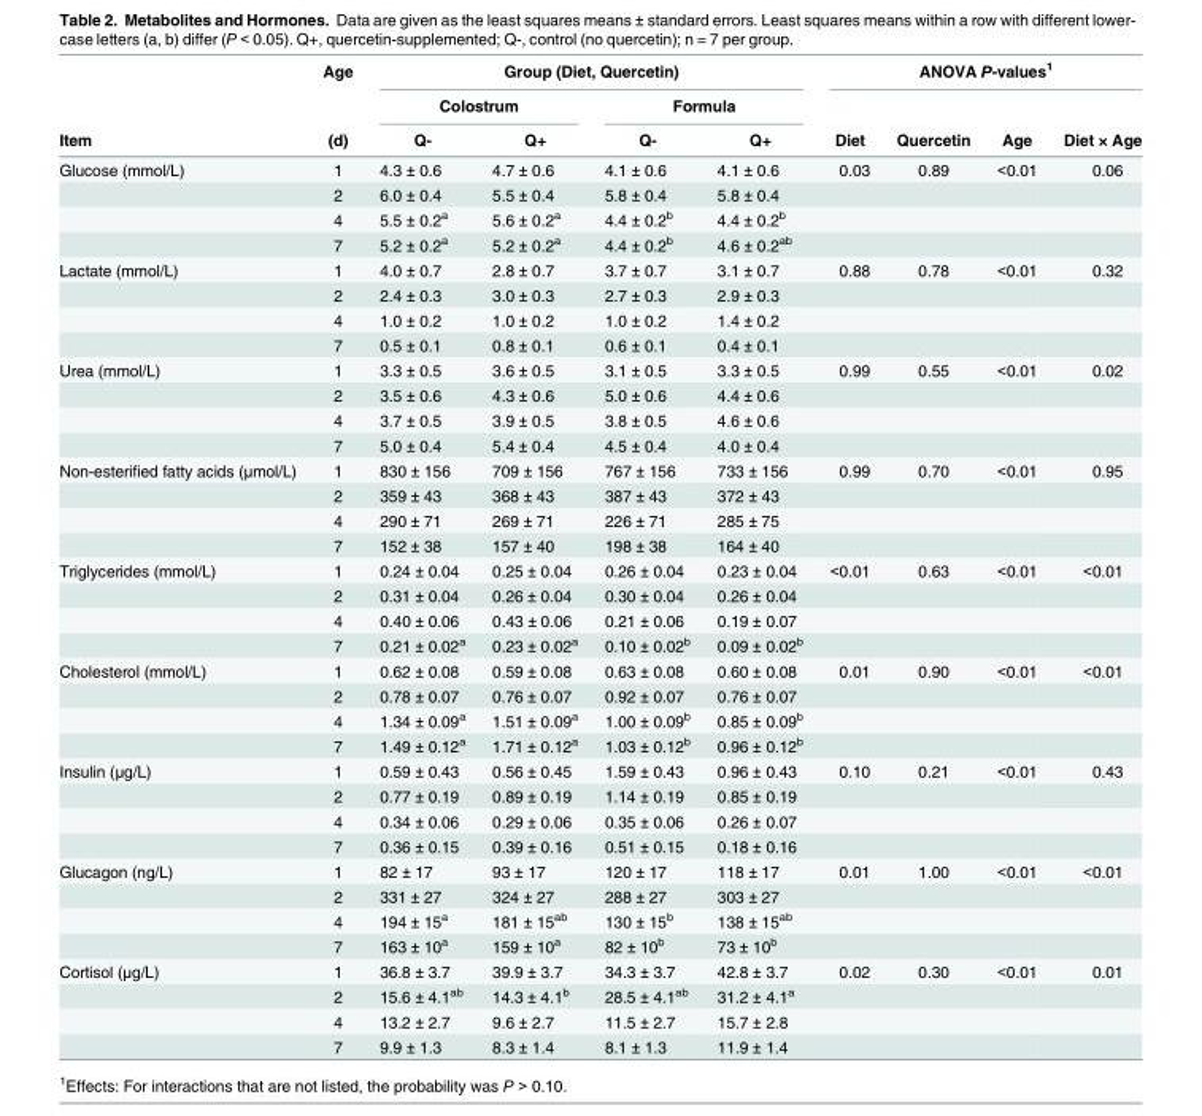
<table><thead><tr><td rowspan="3">Item</td><td rowspan="3">Age (d)</td><td colspan="4">Group (Diet, Quercetin)</td><td colspan="4">ANOVA P-values<sup>1</sup></td></tr><tr><td colspan="2">Colostrum</td><td colspan="2">Formula</td><td rowspan="2">Diet</td><td rowspan="2">Quercetin</td><td rowspan="2">Age</td><td rowspan="2">Diet × Age</td></tr><tr><td>Q-</td><td>Q+</td><td>Q-</td><td>Q+</td></tr></thead><tbody><tr><td rowspan="4">Glucose (mmol/L)</td><td>1</td><td>4.3 ± 0.6</td><td>4.7 ± 0.6</td><td>4.1 ± 0.6</td><td>4.1 ± 0.6</td><td>0.03</td><td>0.89</td><td>&lt;0.01</td><td>0.06</td></tr><tr><td>2</td><td>6.0 ± 0.4</td><td>5.5 ± 0.4</td><td>5.8 ± 0.4</td><td>5.8 ± 0.4</td><td></td><td></td><td></td><td></td></tr><tr><td>4</td><td>5.5 ± 0.2<sup>a</sup></td><td>5.6 ± 0.2<sup>a</sup></td><td>4.4 ± 0.2<sup>b</sup></td><td>4.4 ± 0.2<sup>b</sup></td><td></td><td></td><td></td><td></td></tr><tr><td>7</td><td>5.2 ± 0.2<sup>a</sup></td><td>5.2 ± 0.2<sup>a</sup></td><td>4.4 ± 0.2<sup>b</sup></td><td>4.6 ± 0.2<sup>ab</sup></td><td></td><td></td><td></td><td></td></tr><tr><td rowspan="4">Lactate (mmol/L)</td><td>1</td><td>4.0 ± 0.7</td><td>2.8 ± 0.7</td><td>3.7 ± 0.7</td><td>3.1 ± 0.7</td><td>0.88</td><td>0.78</td><td>&lt;0.01</td><td>0.32</td></tr><tr><td>2</td><td>2.4 ± 0.3</td><td>3.0 ± 0.3</td><td>2.7 ± 0.3</td><td>2.9 ± 0.3</td><td></td><td></td><td></td><td></td></tr><tr><td>4</td><td>1.0 ± 0.2</td><td>1.0 ± 0.2</td><td>1.0 ± 0.2</td><td>1.4 ± 0.2</td><td></td><td></td><td></td><td></td></tr><tr><td>7</td><td>0.5 ± 0.1</td><td>0.8 ± 0.1</td><td>0.6 ± 0.1</td><td>0.4 ± 0.1</td><td></td><td></td><td></td><td></td></tr><tr><td rowspan="4">Urea (mmol/L)</td><td>1</td><td>3.3 ± 0.5</td><td>3.6 ± 0.5</td><td>3.1 ± 0.5</td><td>3.3 ± 0.5</td><td>0.99</td><td>0.55</td><td>&lt;0.01</td><td>0.02</td></tr><tr><td>2</td><td>3.5 ± 0.6</td><td>4.3 ± 0.6</td><td>5.0 ± 0.6</td><td>4.4 ± 0.6</td><td></td><td></td><td></td><td></td></tr><tr><td>4</td><td>3.7 ± 0.5</td><td>3.9 ± 0.5</td><td>3.8 ± 0.5</td><td>4.6 ± 0.6</td><td></td><td></td><td></td><td></td></tr><tr><td>7</td><td>5.0 ± 0.4</td><td>5.4 ± 0.4</td><td>4.5 ± 0.4</td><td>4.0 ± 0.4</td><td></td><td></td><td></td><td></td></tr><tr><td rowspan="4">Non-esterified fatty acids (μmol/L)</td><td>1</td><td>830 ± 156</td><td>709 ± 156</td><td>767 ± 156</td><td>733 ± 156</td><td>0.99</td><td>0.70</td><td>&lt;0.01</td><td>0.95</td></tr><tr><td>2</td><td>359 ± 43</td><td>368 ± 43</td><td>387 ± 43</td><td>372 ± 43</td><td></td><td></td><td></td><td></td></tr><tr><td>4</td><td>290 ± 71</td><td>269 ± 71</td><td>226 ± 71</td><td>285 ± 75</td><td></td><td></td><td></td><td></td></tr><tr><td>7</td><td>152 ± 38</td><td>157 ± 40</td><td>198 ± 38</td><td>164 ± 40</td><td></td><td></td><td></td><td></td></tr><tr><td rowspan="4">Triglycerides (mmol/L)</td><td>1</td><td>0.24 ± 0.04</td><td>0.25 ± 0.04</td><td>0.26 ± 0.04</td><td>0.23 ± 0.04</td><td>&lt;0.01</td><td>0.63</td><td>&lt;0.01</td><td>&lt;0.01</td></tr><tr><td>2</td><td>0.31 ± 0.04</td><td>0.26 ± 0.04</td><td>0.30 ± 0.04</td><td>0.26 ± 0.04</td><td></td><td></td><td></td><td></td></tr><tr><td>4</td><td>0.40 ± 0.06</td><td>0.43 ± 0.06</td><td>0.21 ± 0.06</td><td>0.19 ± 0.07</td><td></td><td></td><td></td><td></td></tr><tr><td>7</td><td>0.21 ± 0.02<sup>a</sup></td><td>0.23 ± 0.02<sup>a</sup></td><td>0.10 ± 0.02<sup>b</sup></td><td>0.09 ± 0.02<sup>b</sup></td><td></td><td></td><td></td><td></td></tr><tr><td rowspan="4">Cholesterol (mmol/L)</td><td>1</td><td>0.62 ± 0.08</td><td>0.59 ± 0.08</td><td>0.63 ± 0.08</td><td>0.60 ± 0.08</td><td>0.01</td><td>0.90</td><td>&lt;0.01</td><td>&lt;0.01</td></tr><tr><td>2</td><td>0.78 ± 0.07</td><td>0.76 ± 0.07</td><td>0.92 ± 0.07</td><td>0.76 ± 0.07</td><td></td><td></td><td></td><td></td></tr><tr><td>4</td><td>1.34 ± 0.09<sup>a</sup></td><td>1.51 ± 0.09<sup>a</sup></td><td>1.00 ± 0.09<sup>b</sup></td><td>0.85 ± 0.09<sup>b</sup></td><td></td><td></td><td></td><td></td></tr><tr><td>7</td><td>1.49 ± 0.12<sup>a</sup></td><td>1.71 ± 0.12<sup>a</sup></td><td>1.03 ± 0.12<sup>b</sup></td><td>0.96 ± 0.12<sup>b</sup></td><td></td><td></td><td></td><td></td></tr><tr><td rowspan="4">Insulin (μg/L)</td><td>1</td><td>0.59 ± 0.43</td><td>0.56 ± 0.45</td><td>1.59 ± 0.43</td><td>0.96 ± 0.43</td><td>0.10</td><td>0.21</td><td>&lt;0.01</td><td>0.43</td></tr><tr><td>2</td><td>0.77 ± 0.19</td><td>0.89 ± 0.19</td><td>1.14 ± 0.19</td><td>0.85 ± 0.19</td><td></td><td></td><td></td><td></td></tr><tr><td>4</td><td>0.34 ± 0.06</td><td>0.29 ± 0.06</td><td>0.35 ± 0.06</td><td>0.26 ± 0.07</td><td></td><td></td><td></td><td></td></tr><tr><td>7</td><td>0.36 ± 0.15</td><td>0.39 ± 0.16</td><td>0.51 ± 0.15</td><td>0.18 ± 0.16</td><td></td><td></td><td></td><td></td></tr><tr><td rowspan="4">Glucagon (ng/L)</td><td>1</td><td>82 ± 17</td><td>93 ± 17</td><td>120 ± 17</td><td>118 ± 17</td><td>0.01</td><td>1.00</td><td>&lt;0.01</td><td>&lt;0.01</td></tr><tr><td>2</td><td>331 ± 27</td><td>324 ± 27</td><td>288 ± 27</td><td>303 ± 27</td><td></td><td></td><td></td><td></td></tr><tr><td>4</td><td>194 ± 15<sup>a</sup></td><td>181 ± 15<sup>ab</sup></td><td>130 ± 15<sup>b</sup></td><td>138 ± 15<sup>ab</sup></td><td></td><td></td><td></td><td></td></tr><tr><td>7</td><td>163 ± 10<sup>a</sup></td><td>159 ± 10<sup>a</sup></td><td>82 ± 10<sup>b</sup></td><td>73 ± 10<sup>b</sup></td><td></td><td></td><td></td><td></td></tr><tr><td rowspan="4">Cortisol (μg/L)</td><td>1</td><td>36.8 ± 3.7</td><td>39.9 ± 3.7</td><td>34.3 ± 3.7</td><td>42.8 ± 3.7</td><td>0.02</td><td>0.30</td><td>&lt;0.01</td><td>0.01</td></tr><tr><td>2</td><td>15.6 ± 4.1<sup>ab</sup></td><td>14.3 ± 4.1<sup>b</sup></td><td>28.5 ± 4.1<sup>ab</sup></td><td>31.2 ± 4.1<sup>a</sup></td><td></td><td></td><td></td><td></td></tr><tr><td>4</td><td>13.2 ± 2.7</td><td>9.6 ± 2.7</td><td>11.5 ± 2.7</td><td>15.7 ± 2.8</td><td></td><td></td><td></td><td></td></tr><tr><td>7</td><td>9.9 ± 1.3</td><td>8.3 ± 1.4</td><td>8.1 ± 1.3</td><td>11.9 ± 1.4</td><td></td><td></td><td></td><td></td></tr></tbody></table>